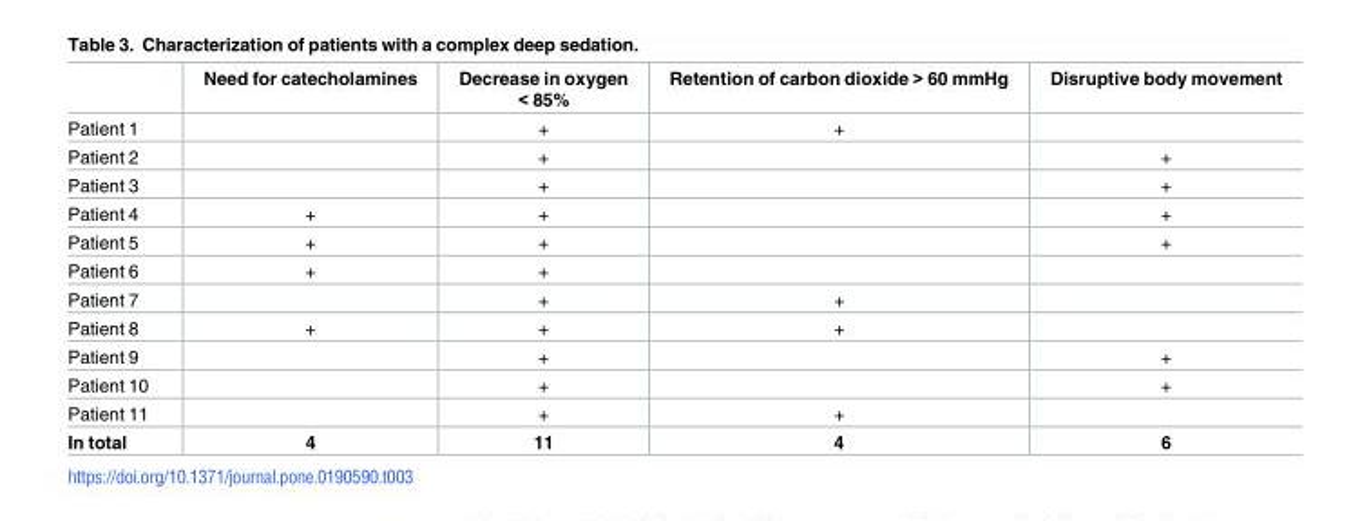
<table><thead><tr><td></td><td>Need for catecholamines</td><td>Decrease in oxygen &lt; 85%</td><td>Retention of carbon dioxide &gt; 60 mmHg</td><td>Disruptive body movement</td></tr></thead><tbody><tr><td>Patient 1</td><td></td><td>+</td><td>+</td><td></td></tr><tr><td>Patient 2</td><td></td><td>+</td><td></td><td>+</td></tr><tr><td>Patient 3</td><td></td><td>+</td><td></td><td>+</td></tr><tr><td>Patient 4</td><td>+</td><td>+</td><td></td><td>+</td></tr><tr><td>Patient 5</td><td>+</td><td>+</td><td></td><td>+</td></tr><tr><td>Patient 6</td><td>+</td><td>+</td><td></td><td></td></tr><tr><td>Patient 7</td><td></td><td>+</td><td>+</td><td></td></tr><tr><td>Patient 8</td><td>+</td><td>+</td><td>+</td><td></td></tr><tr><td>Patient 9</td><td></td><td>+</td><td></td><td>+</td></tr><tr><td>Patient 10</td><td></td><td>+</td><td></td><td>+</td></tr><tr><td>Patient 11</td><td></td><td>+</td><td>+</td><td></td></tr><tr><td>In total</td><td>4</td><td>11</td><td>4</td><td>6</td></tr></tbody></table>